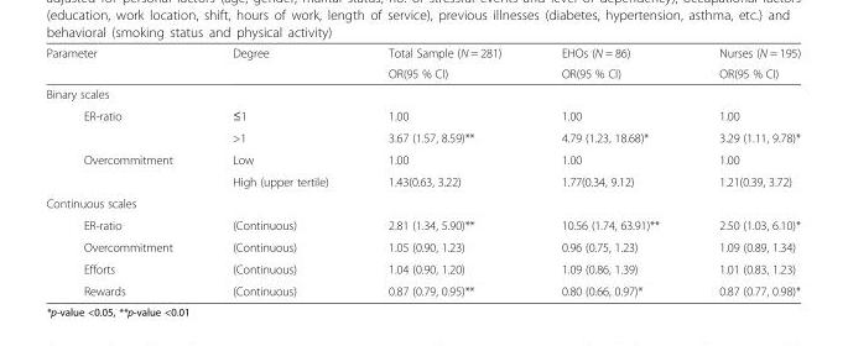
<table><thead><tr><td rowspan="2">Parameter</td><td rowspan="2">Degree</td><td rowspan="2">Total Sample (N = 281) OR(95 % CI)</td><td rowspan="2">EHOs (N = 86) OR(95 % CI)</td><td rowspan="2">Nurses (N = 195) OR(95 % CI)</td></tr><tr></tr></thead><tbody><tr><td colspan="5">Binary scales</td></tr><tr><td rowspan="2">ER-ratio</td><td>≤1</td><td>1.00</td><td>1.00</td><td>1.00</td></tr><tr><td>&gt;1</td><td>3.67 (1.57, 8.59)**</td><td>4.79 (1.23, 18.68)*</td><td>3.29 (1.11, 9.78)*</td></tr><tr><td rowspan="2">Overcommitment</td><td>Low</td><td>1.00</td><td>1.00</td><td>1.00</td></tr><tr><td>High (upper tertile)</td><td>1.43(0.63, 3.22)</td><td>1.77(0.34, 9.12)</td><td>1.21(0.39, 3.72)</td></tr><tr><td colspan="5">Continuous scales</td></tr><tr><td>ER-ratio</td><td>(Continuous)</td><td>2.81 (1.34, 5.90)**</td><td>10.56 (1.74, 63.91)**</td><td>2.50 (1.03, 6.10)*</td></tr><tr><td>Overcommitment</td><td>(Continuous)</td><td>1.05 (0.90, 1.23)</td><td>0.96 (0.75, 1.23)</td><td>1.09 (0.89, 1.34)</td></tr><tr><td>Efforts</td><td>(Continuous)</td><td>1.04 (0.90, 1.20)</td><td>1.09 (0.86, 1.39)</td><td>1.01 (0.83, 1.23)</td></tr><tr><td>Rewards</td><td>(Continuous)</td><td>0.87 (0.79, 0.95)**</td><td>0.80 (0.66, 0.97)*</td><td>0.87 (0.77, 0.98)*</td></tr></tbody></table>